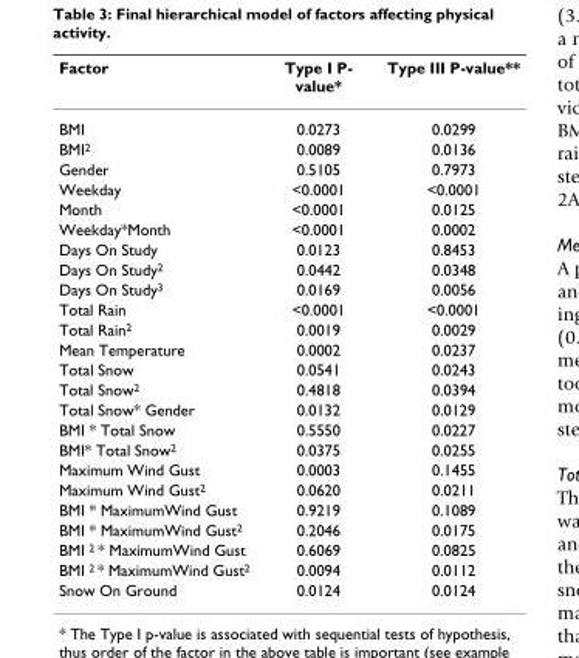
<table><thead><tr><td>Factor</td><td>Type I P- value*</td><td>Type III P-value**</td></tr></thead><tbody><tr><td>BMI</td><td>0.0273</td><td>0.0299</td></tr><tr><td>BMI<sup>2</sup></td><td>0.0089</td><td>0.0136</td></tr><tr><td>Gender</td><td>0.5105</td><td>0.7973</td></tr><tr><td>Weekday</td><td>&lt;0.0001</td><td>&lt;0.0001</td></tr><tr><td>Month</td><td>&lt;0.0001</td><td>0.0125</td></tr><tr><td>Weekday*Month</td><td>&lt;0.0001</td><td>0.0002</td></tr><tr><td>Days On Study</td><td>0.0123</td><td>0.8453</td></tr><tr><td>Days On Study<sup>2</sup></td><td>0.0442</td><td>0.0348</td></tr><tr><td>Days On Study<sup>3</sup></td><td>0.0169</td><td>0.0056</td></tr><tr><td>Total Rain</td><td>&lt;0.0001</td><td>&lt;0.0001</td></tr><tr><td>Total Rain<sup>2</sup></td><td>0.0019</td><td>0.0029</td></tr><tr><td>Mean Temperature</td><td>0.0002</td><td>0.0237</td></tr><tr><td>Total Snow</td><td>0.0541</td><td>0.0243</td></tr><tr><td>Total Snow<sup>2</sup></td><td>0.4818</td><td>0.0394</td></tr><tr><td>Total Snow* Gender</td><td>0.0132</td><td>0.0129</td></tr><tr><td>BMI * Total Snow</td><td>0.5550</td><td>0.0227</td></tr><tr><td>BMI* Total Snow<sup>2</sup></td><td>0.0375</td><td>0.0255</td></tr><tr><td>Maximum Wind Gust</td><td>0.0003</td><td>0.1455</td></tr><tr><td>Maximum Wind Gust<sup>2</sup></td><td>0.0620</td><td>0.0211</td></tr><tr><td>BMI * MaximumWind Gust</td><td>0.9219</td><td>0.1089</td></tr><tr><td>BMI * MaximumWind Gust<sup>2</sup></td><td>0.2046</td><td>0.0175</td></tr><tr><td>BMI <sup>2</sup> * MaximumWind Gust</td><td>0.6069</td><td>0.0825</td></tr><tr><td>BMI <sup>2</sup> * MaximumWind Gust<sup>2</sup></td><td>0.0094</td><td>0.0112</td></tr><tr><td>Snow On Ground</td><td>0.0124</td><td>0.0124</td></tr></tbody></table>